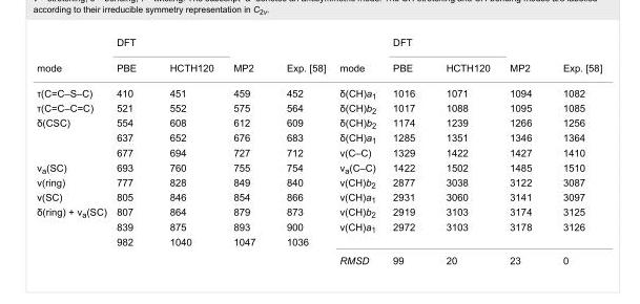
<table><thead><tr><td rowspan="2">mode</td><td colspan="2">DFT</td><td rowspan="2">MP2</td><td rowspan="2">Exp. [58]</td><td rowspan="2">mode</td><td colspan="2">DFT</td><td rowspan="2">MP2</td><td rowspan="2">Exp. [58]</td></tr><tr><td>PBE</td><td>HCTH120</td><td>PBE</td><td>HCTH120</td></tr></thead><tbody><tr><td>τ(C=C–S–C)</td><td>410</td><td>451</td><td>459</td><td>452</td><td>δ(CH)a<sub>1</sub></td><td>1016</td><td>1071</td><td>1094</td><td>1082</td></tr><tr><td>τ(C=C–C=C)</td><td>521</td><td>552</td><td>575</td><td>564</td><td>δ(CH)b<sub>2</sub></td><td>1017</td><td>1088</td><td>1095</td><td>1085</td></tr><tr><td rowspan="3">δ(CSC)</td><td>554</td><td>608</td><td>612</td><td>609</td><td>δ(CH)b<sub>2</sub></td><td>1174</td><td>1239</td><td>1266</td><td>1256</td></tr><tr><td>637</td><td>652</td><td>676</td><td>683</td><td>δ(CH)a<sub>1</sub></td><td>1285</td><td>1351</td><td>1346</td><td>1364</td></tr><tr><td>677</td><td>694</td><td>727</td><td>712</td><td>ν(C–C)</td><td>1329</td><td>1422</td><td>1427</td><td>1410</td></tr><tr><td>ν<sub>a</sub>(SC)</td><td>693</td><td>760</td><td>755</td><td>754</td><td>ν<sub>a</sub>(C–C)</td><td>1422</td><td>1502</td><td>1485</td><td>1510</td></tr><tr><td>ν(ring)</td><td>777</td><td>828</td><td>849</td><td>840</td><td>ν(CH)b<sub>2</sub></td><td>2877</td><td>3038</td><td>3122</td><td>3087</td></tr><tr><td>ν(SC)</td><td>805</td><td>846</td><td>854</td><td>866</td><td>ν(CH)a<sub>1</sub></td><td>2931</td><td>3060</td><td>3141</td><td>3097</td></tr><tr><td rowspan="4">δ(ring) + ν<sub>a</sub>(SC)</td><td>807</td><td>864</td><td>879</td><td>873</td><td>ν(CH)b<sub>2</sub></td><td>2919</td><td>3103</td><td>3174</td><td>3125</td></tr><tr><td>839</td><td>875</td><td>893</td><td>900</td><td>ν(CH)a<sub>1</sub></td><td>2972</td><td>3103</td><td>3178</td><td>3126</td></tr><tr><td>982</td><td>1040</td><td>1047</td><td>1036</td><td colspan="5"></td></tr><tr><td></td><td></td><td></td><td></td><td>RMSD</td><td>99</td><td>20</td><td>23</td><td>0</td></tr></tbody></table>